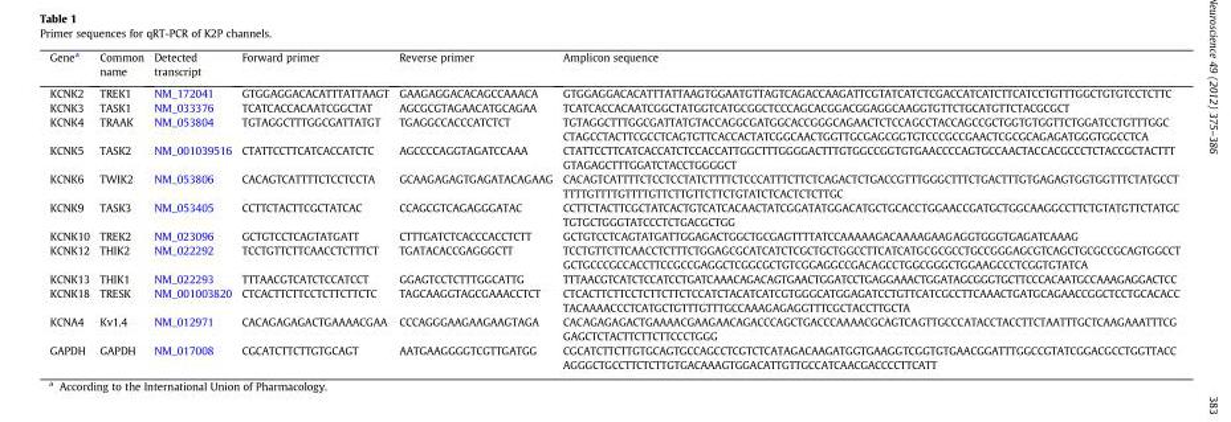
<table><thead><tr><td>Gene<sup>a</sup></td><td>Common name</td><td>Detected transcript</td><td>Forward primer</td><td>Reverse primer</td><td>Amplicon sequence</td></tr></thead><tbody><tr><td>KCNK2</td><td>TREK1</td><td>NM_172041</td><td>GTGGAGGACACATTTATTAAGT</td><td>GAAGAGGACACAGCCAAACA</td><td>GTGGAGGACACATTTATTAAGTGGAATGTTAGTCAGACCAAGATTCGTATCATCTCGACCATCATCTTCATCCTGTTTGGCTGTGTCCTCTTC</td></tr><tr><td>KCNK3</td><td>TASK1</td><td>NM_033376</td><td>TCATCACCACAATCGGCTAT</td><td>AGCGCGTAGAACATGCAGAA</td><td>TCATCACCACAATCGGCTATGGTCATGCGGCTCCCAGCACGGACGGAGGCAAGGTGTTCTGCATGTTCTACGCGCT</td></tr><tr><td>KCNK4</td><td>TRAAK</td><td>NM_053804</td><td>TGTAGGCTTTGGCGATTATGT</td><td>TGAGGCCACCCATCTCT</td><td>TGTAGGCTTTGGCGATTATGTACCAGGCGATGGCACCGGGCAGAACTCTCCAGCCTACCAGCCGCTGGTGTGGTTCTGGATCCTGTTTGGC CTAGCCTACTTCGCCTCAGTGTTCACCACTATCGGCAACTGGTTGCGAGCGGTGTCCCGCCGAACTCGCGCAGAGATGGGTGGCCTCA</td></tr><tr><td>KCNK5</td><td>TASK2</td><td>NM_001039516</td><td>CTATTCCTTCATCACCATCTC</td><td>AGCCCCAGGTAGATCCAAA</td><td>CTATTCCTTCATCACCATCTCCACCATTGGCTTTGGGGACTTTGTGGCCGGTGTGAACCCCAGTGCCAACTACCACGCCCTCTACCGCTACTTT GTAGAGCTTTGGATCTACCTGGGGCT</td></tr><tr><td>KCNK6</td><td>TWIK2</td><td>NM_053806</td><td>CACAGTCATTTTCTCCTCCTA</td><td>GCAAGAGAGTGAGATACAGAAG</td><td>CACAGTCATTTTCTCCTCCTATCTTTTCTCCCATTTCTTCTCAGACTCTGACCGTTTGGGCTTTCTGACTTTGTGAGAGTGGTGGTTTCTATGCCT TTTTGTTTTGTTTTGTTCTTGTTCTTCTGTATCTCACTCTCTTGC</td></tr><tr><td>KCNK9</td><td>TASK3</td><td>NM_053405</td><td>CCTTCTACTTCGCTATCAC</td><td>CCAGCGTCAGAGGGATAC</td><td>CCTTCTACTTCGCTATCACTGTCATCACAACTATCGGATATGGACATGCTGCACCTGGAACCGATGCTGGCAAGGCCTTCTGTATGTTCTATGC TGTGCTGGGTATCCCTCTGACGCTGG</td></tr><tr><td>KCNK10</td><td>TREK2</td><td>NM_023096</td><td>GCTGTCCTCAGTATGATT</td><td>CTTTGATCTCACCCACCTCTT</td><td>GCTGTCCTCAGTATGATTGGAGACTGGCTGCGAGTTTTATCCAAAAAGACAAAAGAAGAGGTGGGTGAGATCAAAG</td></tr><tr><td>KCNK12</td><td>THIK2</td><td>NM_022292</td><td>TCCTGTTCTTCAACCTCTTTCT</td><td>TGATACACCGAGGGCTT</td><td>TCCTGTTCTTCAACCTCTTTCTGGAGCGCATCATCTCGCTGCTGGCCTTCATCATGCGCGCCTGCCGGGAGCGTCAGCTGCGCCGCAGTGGCCT GCTGCCCGCCACCTTCCGCCGAGGCTCGGCGCTGTCGGAGGCCGACAGCCTGGCGGGCTGGAAGCCCTCGGTGTATCA</td></tr><tr><td>KCNK13</td><td>THIK1</td><td>NM_022293</td><td>TTTAACGTCATCTCCATCCT</td><td>GGAGTCCTCTTTGGCATTG</td><td>TTTAACGTCATCTCCATCCTGATCAAACAGACAGTGAACTGGATCCTGAGGAAACTGGATAGCGGGTGCTTCCCACAATGCCAAAGAGGACTCC</td></tr><tr><td>KCNK18</td><td>TRESK</td><td>NM_001003820</td><td>CTCACTTCTTCCTCTTCTTCTC</td><td>TAGCAAGGTAGCGAAACCTCT</td><td>CTCACTTCTTCCTCTTCTTCTCCATCTACATCATCGTGGGCATGGAGATCCTGTTCATCGCCTTCAAACTGATGCAGAACCGGCTCCTGCACACC TACAAAACCCTCATGCTGTTTGTTTGCCAAAGAGAGGTTTCGCTACCTTGCTA</td></tr><tr><td>KCNA4</td><td>Kv1.4</td><td>NM_012971</td><td>CACAGAGAGACTGAAAACGAA</td><td>CCCAGGGAAGAAGAAGTAGA</td><td>CACAGAGAGACTGAAAACGAAGAACAGACCCAGCTGACCCAAAACGCAGTCAGTTGCCCATACCTACCTTCTAATTTGCTCAAGAAATTTCG GAGCTCTACTTCTTCTTCCCTGGG</td></tr><tr><td>GAPDH</td><td>GAPDH</td><td>NM_017008</td><td>CGCATCTTCTTGTGCAGT</td><td>AATGAAGGGGTCGTTGATGG</td><td>CGCATCTTCTTGTGCAGTGCCAGCCTCGTCTCATAGACAAGATGGTGAAGGTCGGTGTGAACGGATTTGGCCGTATCGGACGCCTGGTTACC AGGGCTGCCTTCTCTTGTGACAAAGTGGACATTGTTGCCATCAACGACCCCTTCATT</td></tr></tbody></table>